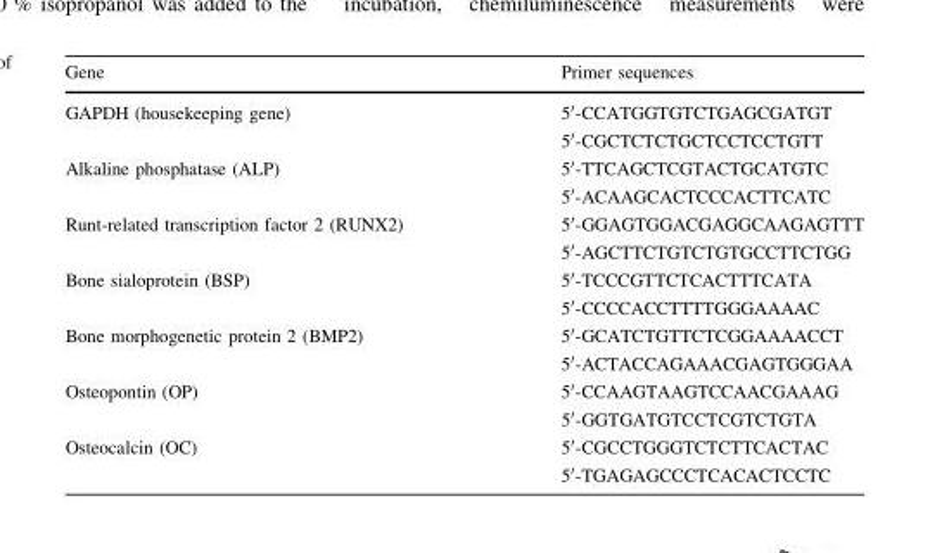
<table><thead><tr><td>Gene</td><td>Primer sequences</td></tr></thead><tbody><tr><td rowspan="2">GAPDH (housekeeping gene)</td><td>5′-CCATGGTGTCTGAGCGATGT</td></tr><tr><td>5′-CGCTCTCTGCTCCTCCTGTT</td></tr><tr><td rowspan="2">Alkaline phosphatase (ALP)</td><td>5′-TTCAGCTCGTACTGCATGTC</td></tr><tr><td>5′-ACAAGCACTCCCACTTCATC</td></tr><tr><td rowspan="2">Runt-related transcription factor 2 (RUNX2)</td><td>5′-GGAGTGGACGAGGCAAGAGTTT</td></tr><tr><td>5′-AGCTTCTGTCTGTGCCTTCTGG</td></tr><tr><td rowspan="2">Bone sialoprotein (BSP)</td><td>5′-TCCCGTTCTCACTTTCATA</td></tr><tr><td>5′-CCCCACCTTTTGGGAAAAC</td></tr><tr><td rowspan="2">Bone morphogenetic protein 2 (BMP2)</td><td>5′-GCATCTGTTCTCGGAAAACCT</td></tr><tr><td>5′-ACTACCAGAAACGAGTGGGAA</td></tr><tr><td rowspan="2">Osteopontin (OP)</td><td>5′-CCAAGTAAGTCCAACGAAAG</td></tr><tr><td>5′-GGTGATGTCCTCGTCTGTA</td></tr><tr><td rowspan="2">Osteocalcin (OC)</td><td>5′-CGCCTGGGTCTCTTCACTAC</td></tr><tr><td>5′-TGAGAGCCCTCACACTCCTC</td></tr></tbody></table>